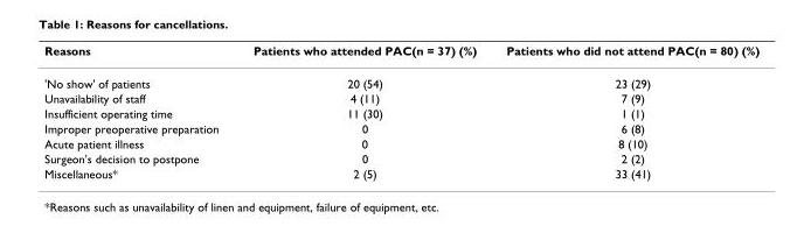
<table><thead><tr><td>Reasons</td><td>Patients who attended PAC(n = 37) (%)</td><td>Patients who did not attend PAC(n = 80) (%)</td></tr></thead><tbody><tr><td>&#x27;No show&#x27; of patients</td><td>20 (54)</td><td>23 (29)</td></tr><tr><td>Unavailability of staff</td><td>4 (11)</td><td>7 (9)</td></tr><tr><td>Insufficient operating time</td><td>11 (30)</td><td>1 (1)</td></tr><tr><td>Improper preoperative preparation</td><td>0</td><td>6 (8)</td></tr><tr><td>Acute patient illness</td><td>0</td><td>8 (10)</td></tr><tr><td>Surgeon&#x27;s decision to postpone</td><td>0</td><td>2 (2)</td></tr><tr><td>Miscellaneous*</td><td>2 (5)</td><td>33 (41)</td></tr></tbody></table>